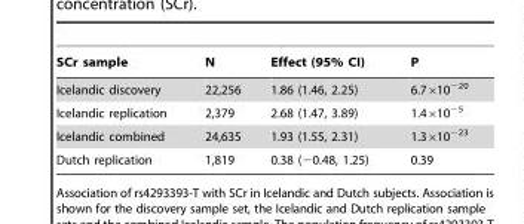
<table><thead><tr><td>SCr sample</td><td>N</td><td>Effect (95% CI)</td><td>P</td></tr></thead><tbody><tr><td>Icelandic discovery</td><td>22,256</td><td>1.86 (1.46, 2.25)</td><td>6.7×10<sup>−20</sup></td></tr><tr><td>Icelandic replication</td><td>2,379</td><td>2.68 (1.47, 3.89)</td><td>1.4×10<sup>−5</sup></td></tr><tr><td>Icelandic combined</td><td>24,635</td><td>1.93 (1.55, 2.31)</td><td>1.3×10<sup>−23</sup></td></tr><tr><td>Dutch replication</td><td>1,819</td><td>0.38 (−0.48, 1.25)</td><td>0.39</td></tr></tbody></table>